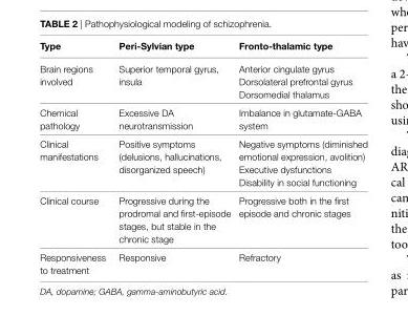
<table><thead><tr><td>Type</td><td>Peri-Sylvian type</td><td>Fronto-thalamic type</td></tr></thead><tbody><tr><td rowspan="3">Brain regions involved</td><td rowspan="3">Superior temporal gyrus, insula</td><td>Anterior cingulate gyrus</td></tr><tr><td>Dorsolateral prefrontal gyrus</td></tr><tr><td>Dorsomedial thalamus</td></tr><tr><td>Chemical pathology</td><td>Excessive DA neurotransmission</td><td>Imbalance in glutamate-GABA system</td></tr><tr><td rowspan="3">Clinical manifestations</td><td rowspan="3">Positive symptoms (delusions, hallucinations, disorganized speech)</td><td>Negative symptoms (diminished emotional expression, avolition)</td></tr><tr><td>Executive dysfunctions</td></tr><tr><td>Disability in social functioning</td></tr><tr><td>Clinical course</td><td>Progressive during the prodromal and first-episode stages, but stable in the chronic stage</td><td>Progressive both in the first episode and chronic stages</td></tr><tr><td>Responsiveness to treatment</td><td>Responsive</td><td>Refractory</td></tr></tbody></table>